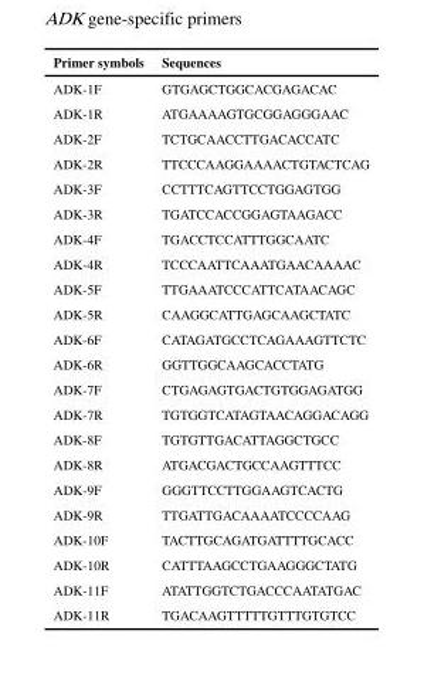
<table><thead><tr><td>Primer symbols</td><td>Sequences</td></tr></thead><tbody><tr><td>ADK-1F</td><td>GTGAGCTGGCACGAGACAC</td></tr><tr><td>ADK-1R</td><td>ATGAAAAGTGCGGAGGGAAC</td></tr><tr><td>ADK-2F</td><td>TCTGCAACCTTGACACCATC</td></tr><tr><td>ADK-2R</td><td>TTCCCAAGGAAAACTGTACTCAG</td></tr><tr><td>ADK-3F</td><td>CCTTTCAGTTCCTGGAGTGG</td></tr><tr><td>ADK-3R</td><td>TGATCCACCGGAGTAAGACC</td></tr><tr><td>ADK-4F</td><td>TGACCTCCATTTGGCAATC</td></tr><tr><td>ADK-4R</td><td>TCCCAATTCAAATGAACAAAAC</td></tr><tr><td>ADK-5F</td><td>TTGAAATCCCATTCATAACAGC</td></tr><tr><td>ADK-5R</td><td>CAAGGCATTGAGCAAGCTATC</td></tr><tr><td>ADK-6F</td><td>CATAGATGCCTCAGAAAGTTCTC</td></tr><tr><td>ADK-6R</td><td>GGTTGGCAAGCACCTATG</td></tr><tr><td>ADK-7F</td><td>CTGAGAGTGACTGTGGAGATGG</td></tr><tr><td>ADK-7R</td><td>TGTGGTCATAGTAACAGGACAGG</td></tr><tr><td>ADK-8F</td><td>TGTGTTGACATTAGGCTGCC</td></tr><tr><td>ADK-8R</td><td>ATGACGACTGCCAAGTTTCC</td></tr><tr><td>ADK-9F</td><td>GGGTTCCTTGGAAGTCACTG</td></tr><tr><td>ADK-9R</td><td>TTGATTGACAAAATCCCCAAG</td></tr><tr><td>ADK-10F</td><td>TACTTGCAGATGATTTTGCACC</td></tr><tr><td>ADK-10R</td><td>CATTTAAGCCTGAAGGGCTATG</td></tr><tr><td>ADK-11F</td><td>ATATTGGTCTGACCCAATATGAC</td></tr><tr><td>ADK-11R</td><td>TGACAAGTTTTTGTTTGTGTCC</td></tr></tbody></table>